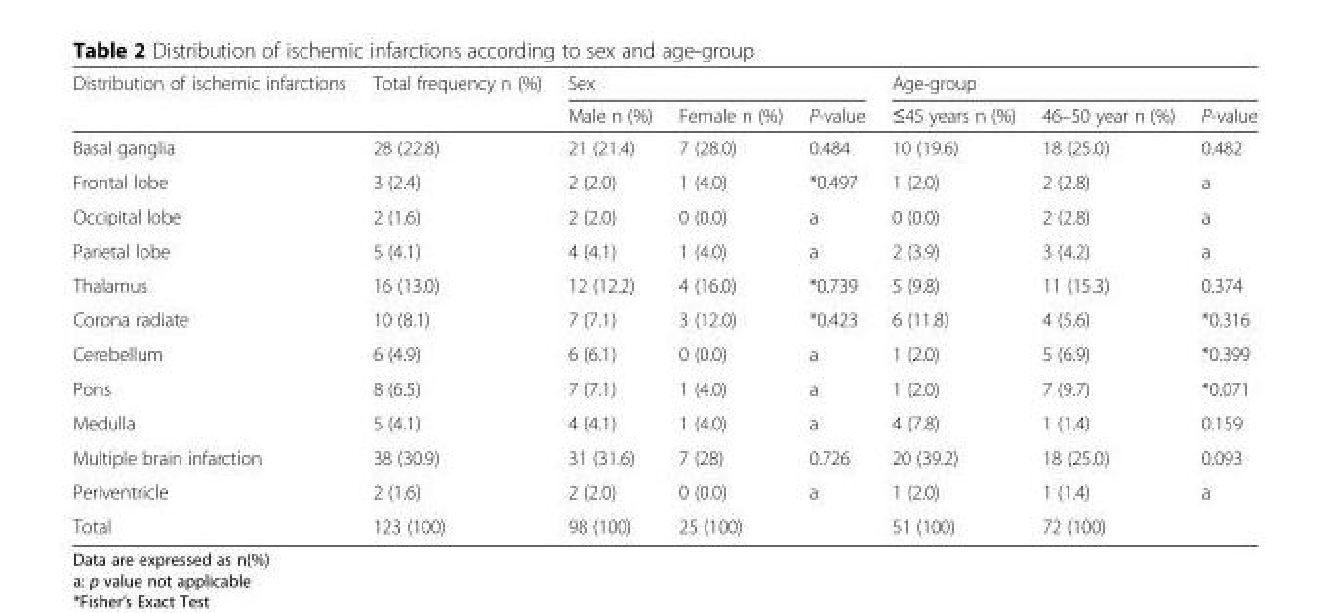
<table><thead><tr><td rowspan="2">Distribution of ischemic infarctions</td><td rowspan="2">Total frequency n (%)</td><td colspan="3">Sex</td><td colspan="3">Age-group</td></tr><tr><td>Male n (%)</td><td>Female n (%)</td><td>P-value</td><td>≤45 years n (%)</td><td>46–50 year n (%)</td><td>P-value</td></tr></thead><tbody><tr><td>Basal ganglia</td><td>28 (22.8)</td><td>21 (21.4)</td><td>7 (28.0)</td><td>0.484</td><td>10 (19.6)</td><td>18 (25.0)</td><td>0.482</td></tr><tr><td>Frontal lobe</td><td>3 (2.4)</td><td>2 (2.0)</td><td>1 (4.0)</td><td>*0.497</td><td>1 (2.0)</td><td>2 (2.8)</td><td>a</td></tr><tr><td>Occipital lobe</td><td>2 (1.6)</td><td>2 (2.0)</td><td>0 (0.0)</td><td>a</td><td>0 (0.0)</td><td>2 (2.8)</td><td>a</td></tr><tr><td>Parietal lobe</td><td>5 (4.1)</td><td>4 (4.1)</td><td>1 (4.0)</td><td>a</td><td>2 (3.9)</td><td>3 (4.2)</td><td>a</td></tr><tr><td>Thalamus</td><td>16 (13.0)</td><td>12 (12.2)</td><td>4 (16.0)</td><td>*0.739</td><td>5 (9.8)</td><td>11 (15.3)</td><td>0.374</td></tr><tr><td>Corona radiate</td><td>10 (8.1)</td><td>7 (7.1)</td><td>3 (12.0)</td><td>*0.423</td><td>6 (11.8)</td><td>4 (5.6)</td><td>*0.316</td></tr><tr><td>Cerebellum</td><td>6 (4.9)</td><td>6 (6.1)</td><td>0 (0.0)</td><td>a</td><td>1 (2.0)</td><td>5 (6.9)</td><td>*0.399</td></tr><tr><td>Pons</td><td>8 (6.5)</td><td>7 (7.1)</td><td>1 (4.0)</td><td>a</td><td>1 (2.0)</td><td>7 (9.7)</td><td>*0.071</td></tr><tr><td>Medulla</td><td>5 (4.1)</td><td>4 (4.1)</td><td>1 (4.0)</td><td>a</td><td>4 (7.8)</td><td>1 (1.4)</td><td>0.159</td></tr><tr><td>Multiple brain infarction</td><td>38 (30.9)</td><td>31 (31.6)</td><td>7 (28)</td><td>0.726</td><td>20 (39.2)</td><td>18 (25.0)</td><td>0.093</td></tr><tr><td>Periventricle</td><td>2 (1.6)</td><td>2 (2.0)</td><td>0 (0.0)</td><td>a</td><td>1 (2.0)</td><td>1 (1.4)</td><td>a</td></tr><tr><td>Total</td><td>123 (100)</td><td>98 (100)</td><td>25 (100)</td><td></td><td>51 (100)</td><td>72 (100)</td><td></td></tr></tbody></table>